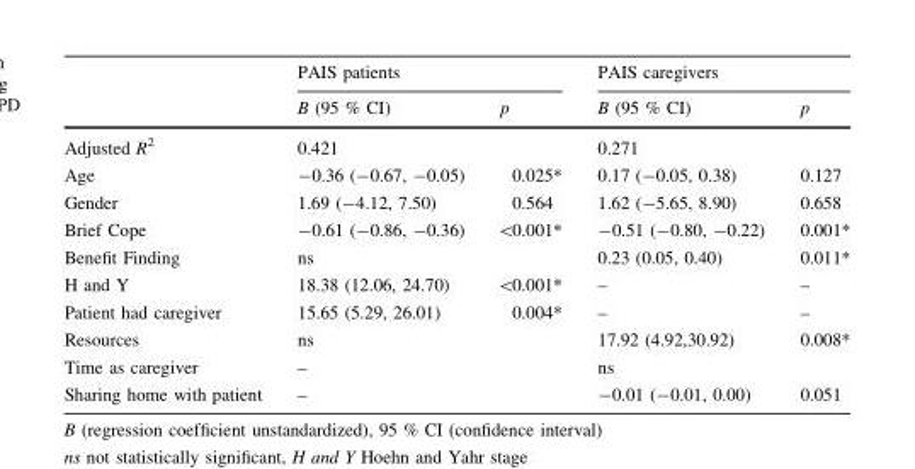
<table><thead><tr><td rowspan="2"></td><td colspan="2">PAIS patients</td><td colspan="2">PAIS caregivers</td></tr><tr><td>B (95 % CI)</td><td>p</td><td>B (95 % CI)</td><td>p</td></tr></thead><tbody><tr><td>Adjusted R<sup>2</sup></td><td>0.421</td><td></td><td>0.271</td><td></td></tr><tr><td>Age</td><td>-0.36 (-0.67, -0.05)</td><td>0.025*</td><td>0.17 (-0.05, 0.38)</td><td>0.127</td></tr><tr><td>Gender</td><td>1.69 (-4.12, 7.50)</td><td>0.564</td><td>1.62 (-5.65, 8.90)</td><td>0.658</td></tr><tr><td>Brief Cope</td><td>-0.61 (-0.86, -0.36)</td><td>&lt;0.001*</td><td>-0.51 (-0.80, -0.22)</td><td>0.001*</td></tr><tr><td>Benefit Finding</td><td>ns</td><td></td><td>0.23 (0.05, 0.40)</td><td>0.011*</td></tr><tr><td>H and Y</td><td>18.38 (12.06, 24.70)</td><td>&lt;0.001*</td><td>–</td><td>–</td></tr><tr><td>Patient had caregiver</td><td>15.65 (5.29, 26.01)</td><td>0.004*</td><td>–</td><td>–</td></tr><tr><td>Resources</td><td>ns</td><td></td><td>17.92 (4.92,30.92)</td><td>0.008*</td></tr><tr><td>Time as caregiver</td><td>–</td><td></td><td>ns</td><td></td></tr><tr><td>Sharing home with patient</td><td>–</td><td></td><td>-0.01 (-0.01, 0.00)</td><td>0.051</td></tr></tbody></table>